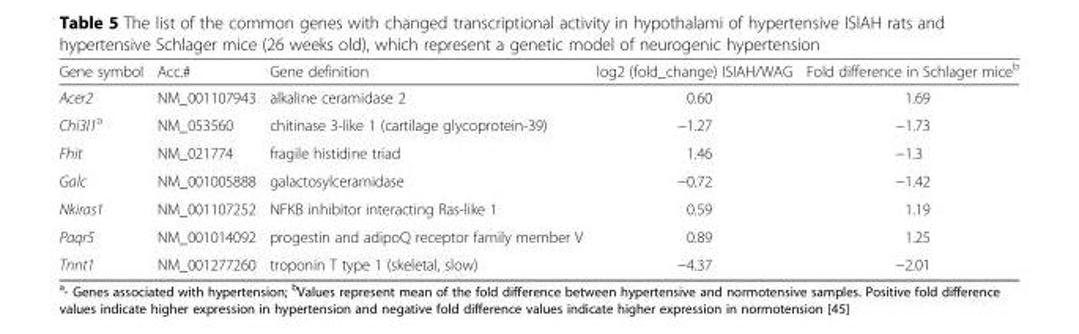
<table><thead><tr><td>Gene symbol</td><td>Acc.#</td><td>Gene definition</td><td>log2 (fold_change) ISIAH/WAG</td><td>Fold difference in Schlager mice<sup>b</sup></td></tr></thead><tbody><tr><td>Acer2</td><td>NM_001107943</td><td>alkaline ceramidase 2</td><td>0.60</td><td>1.69</td></tr><tr><td>Chi3l1<sup>a</sup></td><td>NM_053560</td><td>chitinase 3-like 1 (cartilage glycoprotein-39)</td><td>−1.27</td><td>−1.73</td></tr><tr><td>Fhit</td><td>NM_021774</td><td>fragile histidine triad</td><td>1.46</td><td>−1.3</td></tr><tr><td>Galc</td><td>NM_001005888</td><td>galactosylceramidase</td><td>−0.72</td><td>−1.42</td></tr><tr><td>Nkiras1</td><td>NM_001107252</td><td>NFKB inhibitor interacting Ras-like 1</td><td>0.59</td><td>1.19</td></tr><tr><td>Paqr5</td><td>NM_001014092</td><td>progestin and adipoQ receptor family member V</td><td>0.89</td><td>1.25</td></tr><tr><td>Tnnt1</td><td>NM_001277260</td><td>troponin T type 1 (skeletal, slow)</td><td>−4.37</td><td>−2.01</td></tr></tbody></table>